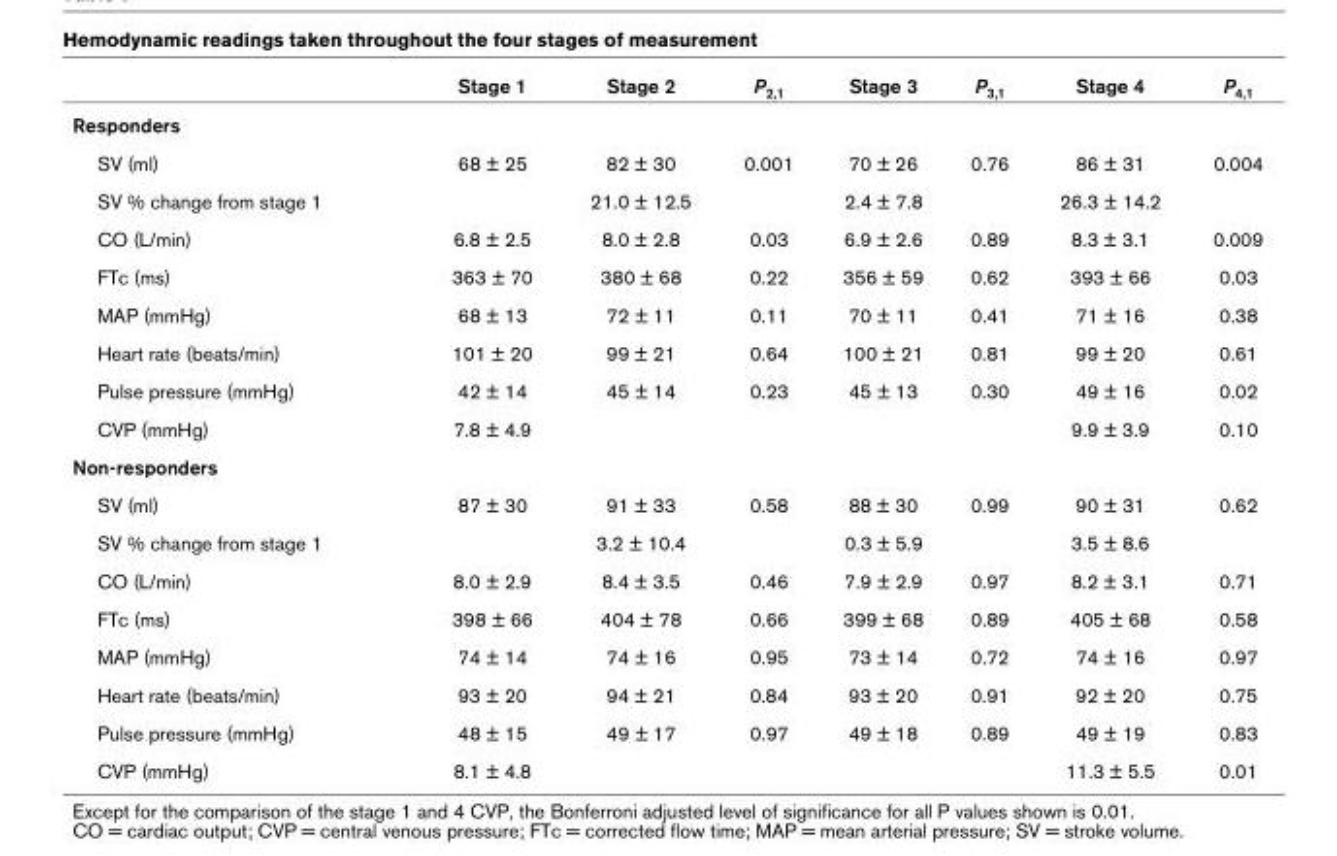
<table><thead><tr><td></td><td>Stage 1</td><td>Stage 2</td><td>P<sub>2,1</sub></td><td>Stage 3</td><td>P<sub>3,1</sub></td><td>Stage 4</td><td>P<sub>4,1</sub></td></tr></thead><tbody><tr><td colspan="8">Responders</td></tr><tr><td>SV (ml)</td><td>68 ± 25</td><td>82 ± 30</td><td>0.001</td><td>70 ± 26</td><td>0.76</td><td>86 ± 31</td><td>0.004</td></tr><tr><td>SV % change from stage 1</td><td></td><td>21.0 ± 12.5</td><td></td><td>2.4 ± 7.8</td><td></td><td>26.3 ± 14.2</td><td></td></tr><tr><td>CO (L/min)</td><td>6.8 ± 2.5</td><td>8.0 ± 2.8</td><td>0.03</td><td>6.9 ± 2.6</td><td>0.89</td><td>8.3 ± 3.1</td><td>0.009</td></tr><tr><td>FTc (ms)</td><td>363 ± 70</td><td>380 ± 68</td><td>0.22</td><td>356 ± 59</td><td>0.62</td><td>393 ± 66</td><td>0.03</td></tr><tr><td>MAP (mmHg)</td><td>68 ± 13</td><td>72 ± 11</td><td>0.11</td><td>70 ± 11</td><td>0.41</td><td>71 ± 16</td><td>0.38</td></tr><tr><td>Heart rate (beats/min)</td><td>101 ± 20</td><td>99 ± 21</td><td>0.64</td><td>100 ± 21</td><td>0.81</td><td>99 ± 20</td><td>0.61</td></tr><tr><td>Pulse pressure (mmHg)</td><td>42 ± 14</td><td>45 ± 14</td><td>0.23</td><td>45 ± 13</td><td>0.30</td><td>49 ± 16</td><td>0.02</td></tr><tr><td>CVP (mmHg)</td><td>7.8 ± 4.9</td><td></td><td></td><td></td><td></td><td>9.9 ± 3.9</td><td>0.10</td></tr><tr><td colspan="8">Non-responders</td></tr><tr><td>SV (ml)</td><td>87 ± 30</td><td>91 ± 33</td><td>0.58</td><td>88 ± 30</td><td>0.99</td><td>90 ± 31</td><td>0.62</td></tr><tr><td>SV % change from stage 1</td><td></td><td>3.2 ± 10.4</td><td></td><td>0.3 ± 5.9</td><td></td><td>3.5 ± 8.6</td><td></td></tr><tr><td>CO (L/min)</td><td>8.0 ± 2.9</td><td>8.4 ± 3.5</td><td>0.46</td><td>7.9 ± 2.9</td><td>0.97</td><td>8.2 ± 3.1</td><td>0.71</td></tr><tr><td>FTc (ms)</td><td>398 ± 66</td><td>404 ± 78</td><td>0.66</td><td>399 ± 68</td><td>0.89</td><td>405 ± 68</td><td>0.58</td></tr><tr><td>MAP (mmHg)</td><td>74 ± 14</td><td>74 ± 16</td><td>0.95</td><td>73 ± 14</td><td>0.72</td><td>74 ± 16</td><td>0.97</td></tr><tr><td>Heart rate (beats/min)</td><td>93 ± 20</td><td>94 ± 21</td><td>0.84</td><td>93 ± 20</td><td>0.91</td><td>92 ± 20</td><td>0.75</td></tr><tr><td>Pulse pressure (mmHg)</td><td>48 ± 15</td><td>49 ± 17</td><td>0.97</td><td>49 ± 18</td><td>0.89</td><td>49 ± 19</td><td>0.83</td></tr><tr><td>CVP (mmHg)</td><td>8.1 ± 4.8</td><td></td><td></td><td></td><td></td><td>11.3 ± 5.5</td><td>0.01</td></tr></tbody></table>